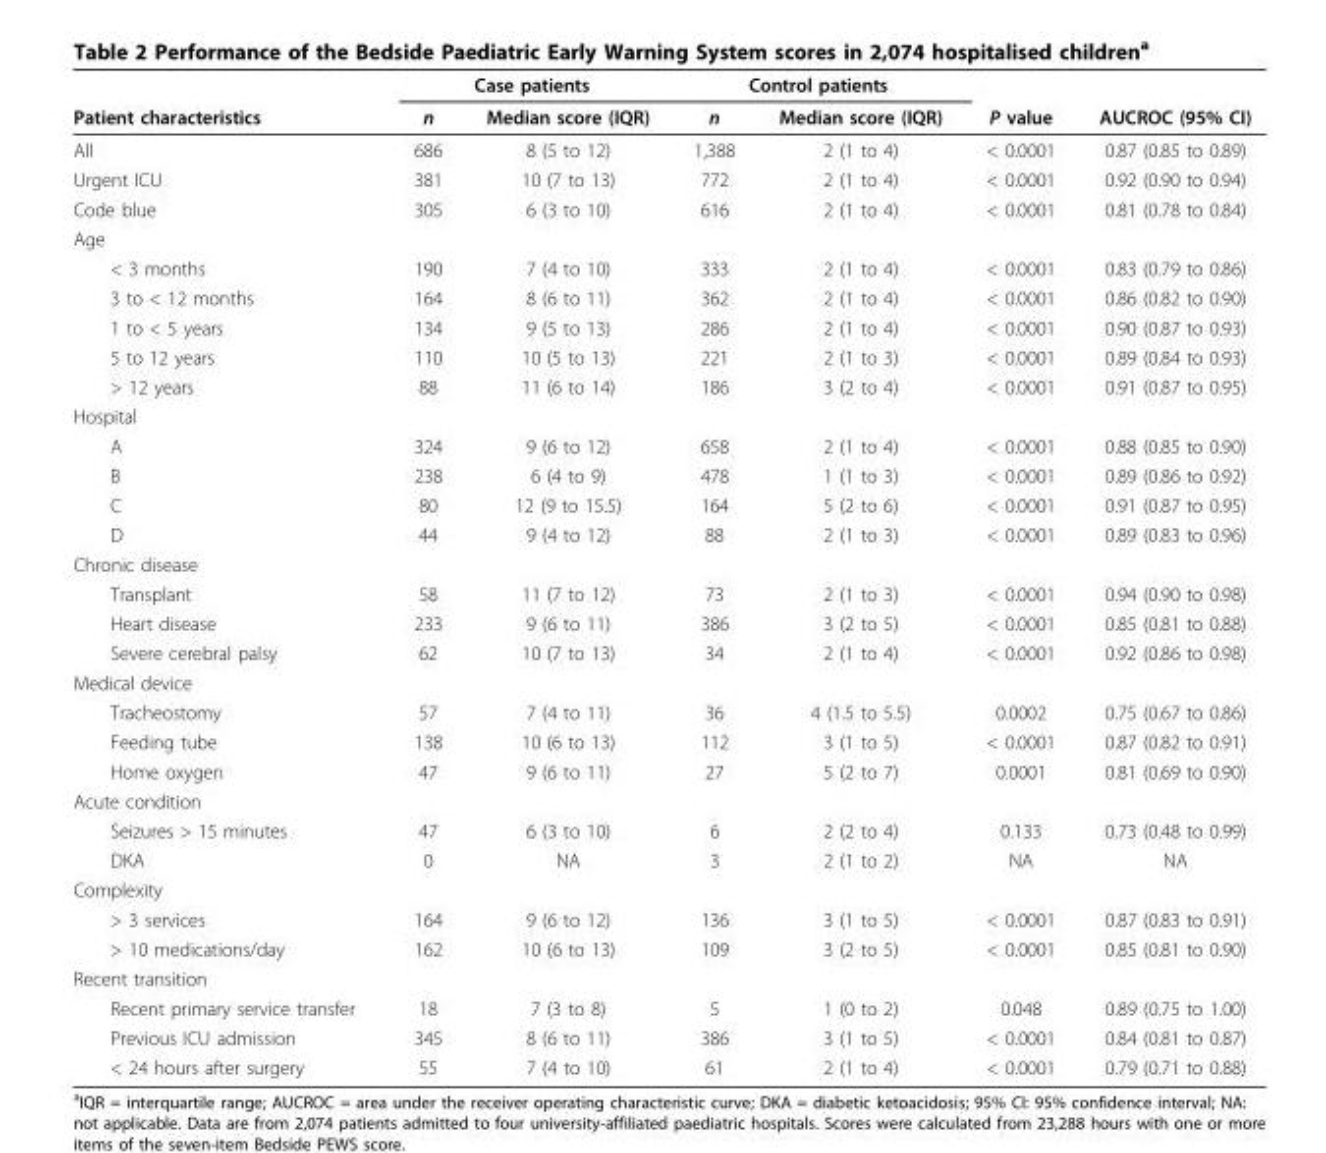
<table><thead><tr><td rowspan="2">Patient characteristics</td><td colspan="2">Case patients</td><td colspan="2">Control patients</td><td rowspan="2">P value</td><td rowspan="2">AUCROC (95% CI)</td></tr><tr><td>n</td><td>Median score (IQR)</td><td>n</td><td>Median score (IQR)</td></tr></thead><tbody><tr><td>All</td><td>686</td><td>8 (5 to 12)</td><td>1,388</td><td>2 (1 to 4)</td><td>&lt; 0.0001</td><td>0.87 (0.85 to 0.89)</td></tr><tr><td>Urgent ICU</td><td>381</td><td>10 (7 to 13)</td><td>772</td><td>2 (1 to 4)</td><td>&lt; 0.0001</td><td>0.92 (0.90 to 0.94)</td></tr><tr><td>Code blue</td><td>305</td><td>6 (3 to 10)</td><td>616</td><td>2 (1 to 4)</td><td>&lt; 0.0001</td><td>0.81 (0.78 to 0.84)</td></tr><tr><td colspan="7">Age</td></tr><tr><td>&lt; 3 months</td><td>190</td><td>7 (4 to 10)</td><td>333</td><td>2 (1 to 4)</td><td>&lt; 0.0001</td><td>0.83 (0.79 to 0.86)</td></tr><tr><td>3 to &lt; 12 months</td><td>164</td><td>8 (6 to 11)</td><td>362</td><td>2 (1 to 4)</td><td>&lt; 0.0001</td><td>0.86 (0.82 to 0.90)</td></tr><tr><td>1 to &lt; 5 years</td><td>134</td><td>9 (5 to 13)</td><td>286</td><td>2 (1 to 4)</td><td>&lt; 0.0001</td><td>0.90 (0.87 to 0.93)</td></tr><tr><td>5 to 12 years</td><td>110</td><td>10 (5 to 13)</td><td>221</td><td>2 (1 to 3)</td><td>&lt; 0.0001</td><td>0.89 (0.84 to 0.93)</td></tr><tr><td>&gt; 12 years</td><td>88</td><td>11 (6 to 14)</td><td>186</td><td>3 (2 to 4)</td><td>&lt; 0.0001</td><td>0.91 (0.87 to 0.95)</td></tr><tr><td colspan="7">Hospital</td></tr><tr><td>A</td><td>324</td><td>9 (6 to 12)</td><td>658</td><td>2 (1 to 4)</td><td>&lt; 0.0001</td><td>0.88 (0.85 to 0.90)</td></tr><tr><td>B</td><td>238</td><td>6 (4 to 9)</td><td>478</td><td>1 (1 to 3)</td><td>&lt; 0.0001</td><td>0.89 (0.86 to 0.92)</td></tr><tr><td>C</td><td>80</td><td>12 (9 to 15.5)</td><td>164</td><td>5 (2 to 6)</td><td>&lt; 0.0001</td><td>0.91 (0.87 to 0.95)</td></tr><tr><td>D</td><td>44</td><td>9 (4 to 12)</td><td>88</td><td>2 (1 to 3)</td><td>&lt; 0.0001</td><td>0.89 (0.83 to 0.96)</td></tr><tr><td colspan="7">Chronic disease</td></tr><tr><td>Transplant</td><td>58</td><td>11 (7 to 12)</td><td>73</td><td>2 (1 to 3)</td><td>&lt; 0.0001</td><td>0.94 (0.90 to 0.98)</td></tr><tr><td>Heart disease</td><td>233</td><td>9 (6 to 11)</td><td>386</td><td>3 (2 to 5)</td><td>&lt; 0.0001</td><td>0.85 (0.81 to 0.88)</td></tr><tr><td>Severe cerebral palsy</td><td>62</td><td>10 (7 to 13)</td><td>34</td><td>2 (1 to 4)</td><td>&lt; 0.0001</td><td>0.92 (0.86 to 0.98)</td></tr><tr><td colspan="7">Medical device</td></tr><tr><td>Tracheostomy</td><td>57</td><td>7 (4 to 11)</td><td>36</td><td>4 (1.5 to 5.5)</td><td>0.0002</td><td>0.75 (0.67 to 0.86)</td></tr><tr><td>Feeding tube</td><td>138</td><td>10 (6 to 13)</td><td>112</td><td>3 (1 to 5)</td><td>&lt; 0.0001</td><td>0.87 (0.82 to 0.91)</td></tr><tr><td>Home oxygen</td><td>47</td><td>9 (6 to 11)</td><td>27</td><td>5 (2 to 7)</td><td>0.0001</td><td>0.81 (0.69 to 0.90)</td></tr><tr><td colspan="7">Acute condition</td></tr><tr><td>Seizures &gt; 15 minutes</td><td>47</td><td>6 (3 to 10)</td><td>6</td><td>2 (2 to 4)</td><td>0.133</td><td>0.73 (0.48 to 0.99)</td></tr><tr><td>DKA</td><td>0</td><td>NA</td><td>3</td><td>2 (1 to 2)</td><td>NA</td><td>NA</td></tr><tr><td colspan="7">Complexity</td></tr><tr><td>&gt; 3 services</td><td>164</td><td>9 (6 to 12)</td><td>136</td><td>3 (1 to 5)</td><td>&lt; 0.0001</td><td>0.87 (0.83 to 0.91)</td></tr><tr><td>&gt; 10 medications/day</td><td>162</td><td>10 (6 to 13)</td><td>109</td><td>3 (2 to 5)</td><td>&lt; 0.0001</td><td>0.85 (0.81 to 0.90)</td></tr><tr><td colspan="7">Recent transition</td></tr><tr><td>Recent primary service transfer</td><td>18</td><td>7 (3 to 8)</td><td>5</td><td>1 (0 to 2)</td><td>0.048</td><td>0.89 (0.75 to 1.00)</td></tr><tr><td>Previous ICU admission</td><td>345</td><td>8 (6 to 11)</td><td>386</td><td>3 (1 to 5)</td><td>&lt; 0.0001</td><td>0.84 (0.81 to 0.87)</td></tr><tr><td>&lt; 24 hours after surgery</td><td>55</td><td>7 (4 to 10)</td><td>61</td><td>2 (1 to 4)</td><td>&lt; 0.0001</td><td>0.79 (0.71 to 0.88)</td></tr></tbody></table>